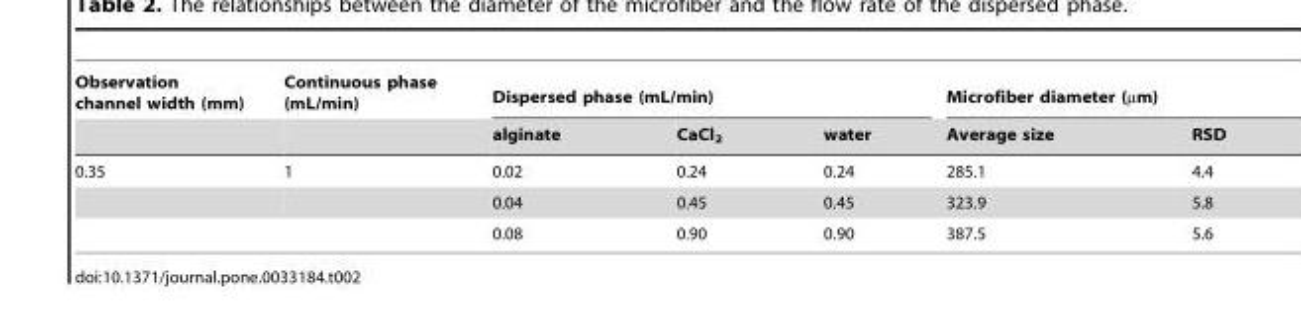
<table><thead><tr><td rowspan="2">Observation channel width (mm)</td><td rowspan="2">Continuous phase (mL/min)</td><td colspan="3">Dispersed phase (mL/min)</td><td colspan="2">Microfiber diameter (µm)</td></tr><tr><td>alginate</td><td>CaCl<sub>2</sub></td><td>water</td><td>Average size</td><td>RSD</td></tr></thead><tbody><tr><td rowspan="3">0.35</td><td>1</td><td>0.02</td><td>0.24</td><td>0.24</td><td>285.1</td><td>4.4</td></tr><tr><td></td><td>0.04</td><td>0.45</td><td>0.45</td><td>323.9</td><td>5.8</td></tr><tr><td></td><td>0.08</td><td>0.90</td><td>0.90</td><td>387.5</td><td>5.6</td></tr></tbody></table>